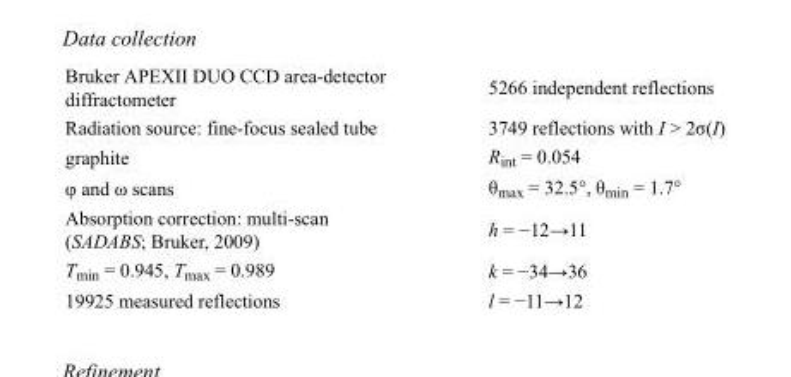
<table><tbody><tr><td>Bruker APEXII DUO CCD area-detector diffractometer</td><td>5266 independent reflections</td></tr><tr><td>Radiation source: fine-focus sealed tube</td><td>3749 reflections with I &gt; 2σ(I)</td></tr><tr><td>graphite</td><td>R<sub>int</sub> = 0.054</td></tr><tr><td>φ and ω scans</td><td>θ<sub>max</sub> = 32.5°, θ<sub>min</sub> = 1.7°</td></tr><tr><td>Absorption correction: multi-scan (SADABS; Bruker, 2009)</td><td>h = −12→11</td></tr><tr><td>T<sub>min</sub> = 0.945, T<sub>max</sub> = 0.989</td><td>k = −34→36</td></tr><tr><td>19925 measured reflections</td><td>l = −11→12</td></tr></tbody></table>